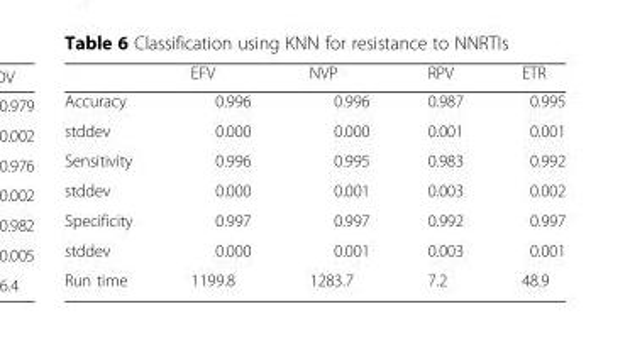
<table><thead><tr><td></td><td>EFV</td><td>NVP</td><td>RPV</td><td>ETR</td></tr></thead><tbody><tr><td>Accuracy</td><td>0.996</td><td>0.996</td><td>0.987</td><td>0.995</td></tr><tr><td>stddev</td><td>0.000</td><td>0.000</td><td>0.001</td><td>0.001</td></tr><tr><td>Sensitivity</td><td>0.996</td><td>0.995</td><td>0.983</td><td>0.992</td></tr><tr><td>stddev</td><td>0.000</td><td>0.001</td><td>0.003</td><td>0.002</td></tr><tr><td>Specificity</td><td>0.997</td><td>0.997</td><td>0.992</td><td>0.997</td></tr><tr><td>stddev</td><td>0.000</td><td>0.001</td><td>0.003</td><td>0.001</td></tr><tr><td>Run time</td><td>1199.8</td><td>1283.7</td><td>7.2</td><td>48.9</td></tr></tbody></table>